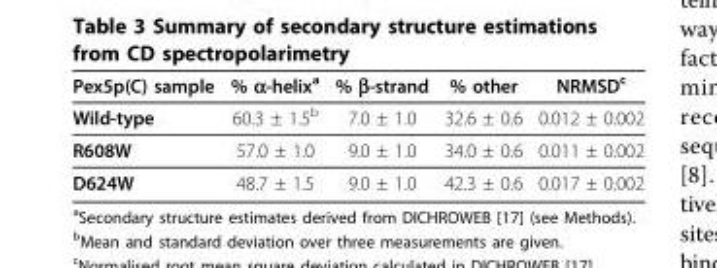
<table><thead><tr><td>Pex5p(C) sample</td><td>% α-helix<sup>a</sup></td><td>% β-strand</td><td>% other</td><td>NRMSD<sup>c</sup></td></tr></thead><tbody><tr><td>Wild-type</td><td>60.3 ± 1.5<sup>b</sup></td><td>7.0 ± 1.0</td><td>32.6 ± 0.6</td><td>0.012 ± 0.002</td></tr><tr><td>R608W</td><td>57.0 ± 1.0</td><td>9.0 ± 1.0</td><td>34.0 ± 0.6</td><td>0.011 ± 0.002</td></tr><tr><td>D624W</td><td>48.7 ± 1.5</td><td>9.0 ± 1.0</td><td>42.3 ± 0.6</td><td>0.017 ± 0.002</td></tr></tbody></table>